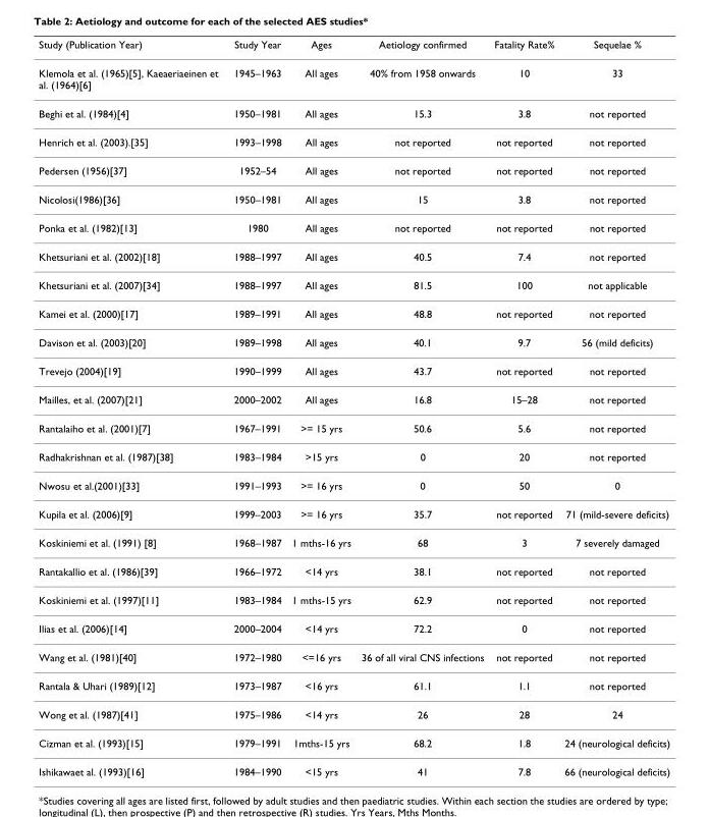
<table><thead><tr><td>Study (Publication Year)</td><td>Study Year</td><td>Ages</td><td>Aetiology confirmed</td><td>Fatality Rate%</td><td>Sequelae %</td></tr></thead><tbody><tr><td>Klemola et al. (1965)[5], Kaeaeriaeinen et al. (1964)[6]</td><td>1945–1963</td><td>All ages</td><td>40% from 1958 onwards</td><td>10</td><td>33</td></tr><tr><td>Beghi et al. (1984)[4]</td><td>1950–1981</td><td>All ages</td><td>15.3</td><td>3.8</td><td>not reported</td></tr><tr><td>Henrich et al. (2003).[35]</td><td>1993–1998</td><td>All ages</td><td>not reported</td><td>not reported</td><td>not reported</td></tr><tr><td>Pedersen (1956)[37]</td><td>1952–54</td><td>All ages</td><td>not reported</td><td>not reported</td><td>not reported</td></tr><tr><td>Nicolosi(1986)[36]</td><td>1950–1981</td><td>All ages</td><td>15</td><td>3.8</td><td>not reported</td></tr><tr><td>Ponka et al. (1982)[13]</td><td>1980</td><td>All ages</td><td>not reported</td><td>not reported</td><td>not reported</td></tr><tr><td>Khetsuriani et al. (2002)[18]</td><td>1988–1997</td><td>All ages</td><td>40.5</td><td>7.4</td><td>not reported</td></tr><tr><td>Khetsuriani et al. (2007)[34]</td><td>1988–1997</td><td>All ages</td><td>81.5</td><td>100</td><td>not applicable</td></tr><tr><td>Kamei et al. (2000)[17]</td><td>1989–1991</td><td>All ages</td><td>48.8</td><td>not reported</td><td>not reported</td></tr><tr><td>Davison et al. (2003)[20]</td><td>1989–1998</td><td>All ages</td><td>40.1</td><td>9.7</td><td>56 (mild deficits)</td></tr><tr><td>Trevejo (2004)[19]</td><td>1990–1999</td><td>All ages</td><td>43.7</td><td>not reported</td><td>not reported</td></tr><tr><td>Mailles, et al. (2007)[21]</td><td>2000–2002</td><td>All ages</td><td>16.8</td><td>15–28</td><td>not reported</td></tr><tr><td>Rantalaiho et al. (2001)[7]</td><td>1967–1991</td><td>&gt;= 15 yrs</td><td>50.6</td><td>5.6</td><td>not reported</td></tr><tr><td>Radhakrishnan et al. (1987)[38]</td><td>1983–1984</td><td>&gt;15 yrs</td><td>0</td><td>20</td><td>not reported</td></tr><tr><td>Nwosu et al.(2001)[33]</td><td>1991–1993</td><td>&gt;= 16 yrs</td><td>0</td><td>50</td><td>0</td></tr><tr><td>Kupila et al. (2006)[9]</td><td>1999–2003</td><td>&gt;= 16 yrs</td><td>35.7</td><td>not reported</td><td>71 (mild-severe deficits)</td></tr><tr><td>Koskiniemi et al. (1991) [8]</td><td>1968–1987</td><td>1 mths-16 yrs</td><td>68</td><td>3</td><td>7 severely damaged</td></tr><tr><td>Rantakallio et al. (1986)[39]</td><td>1966–1972</td><td>&lt;14 yrs</td><td>38.1</td><td>not reported</td><td>not reported</td></tr><tr><td>Koskiniemi et al. (1997)[11]</td><td>1983–1984</td><td>1 mths-15 yrs</td><td>62.9</td><td>not reported</td><td>not reported</td></tr><tr><td>Ilias et al. (2006)[14]</td><td>2000–2004</td><td>&lt;14 yrs</td><td>72.2</td><td>0</td><td>not reported</td></tr><tr><td>Wang et al. (1981)[40]</td><td>1972–1980</td><td>&lt;=16 yrs</td><td>36 of all viral CNS infections</td><td>not reported</td><td>not reported</td></tr><tr><td>Rantala &amp; Uhari (1989)[12]</td><td>1973–1987</td><td>&lt;16 yrs</td><td>61.1</td><td>1.1</td><td>not reported</td></tr><tr><td>Wong et al. (1987)[41]</td><td>1975–1986</td><td>&lt;14 yrs</td><td>26</td><td>28</td><td>24</td></tr><tr><td>Cizman et al. (1993)[15]</td><td>1979–1991</td><td>1mths-15 yrs</td><td>68.2</td><td>1.8</td><td>24 (neurological deficits)</td></tr><tr><td>Ishikawaet al. (1993)[16]</td><td>1984–1990</td><td>&lt;15 yrs</td><td>41</td><td>7.8</td><td>66 (neurological deficits)</td></tr></tbody></table>